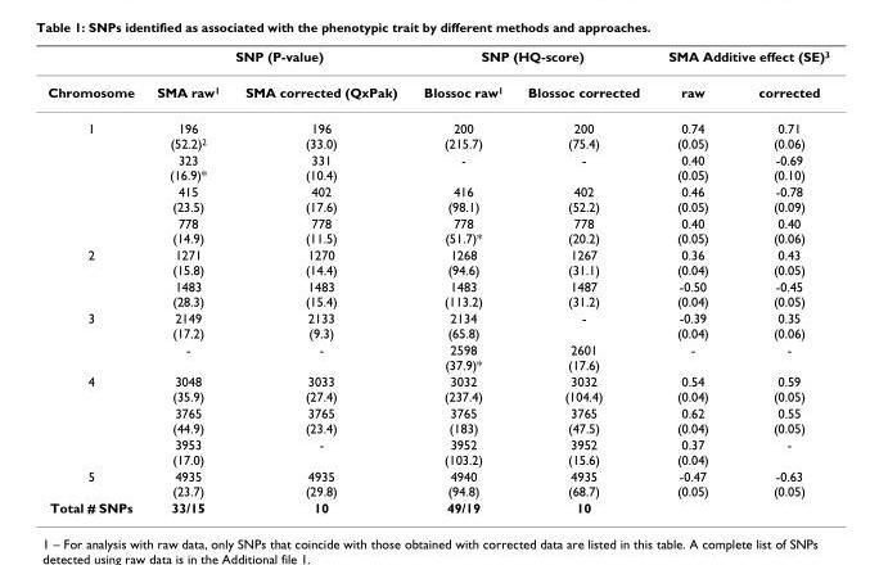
<table><thead><tr><td rowspan="2">Chromosome</td><td colspan="2">SNP (P-value)</td><td colspan="2">SNP (HQ-score)</td><td colspan="2">SMA Additive effect (SE)<sup>3</sup></td></tr><tr><td>SMA raw<sup>1</sup></td><td>SMA corrected (QxPak)</td><td>Blossoc raw<sup>1</sup></td><td>Blossoc corrected</td><td>raw</td><td>corrected</td></tr></thead><tbody><tr><td rowspan="4">1</td><td>196 (52.2)<sup>2</sup></td><td>196 (33.0)</td><td>200 (215.7)</td><td>200 (75.4)</td><td>0.74 (0.05)</td><td>0.71 (0.06)</td></tr><tr><td>323 (16.9)*</td><td>331 (10.4)</td><td>-</td><td>-</td><td>0.40 (0.05)</td><td>-0.69 (0.10)</td></tr><tr><td>415 (23.5)</td><td>402 (17.6)</td><td>416 (98.1)</td><td>402 (52.2)</td><td>0.46 (0.05)</td><td>-0.78 (0.09)</td></tr><tr><td>778 (14.9)</td><td>778 (11.5)</td><td>778 (51.7)*</td><td>778 (20.2)</td><td>0.40 (0.05)</td><td>0.40 (0.06)</td></tr><tr><td rowspan="2">2</td><td>1271 (15.8)</td><td>1270 (14.4)</td><td>1268 (94.6)</td><td>1267 (31.1)</td><td>0.36 (0.04)</td><td>0.43 (0.05)</td></tr><tr><td>1483 (28.3)</td><td>1483 (15.4)</td><td>1483 (113.2)</td><td>1487 (31.2)</td><td>-0.50 (0.04)</td><td>-0.45 (0.05)</td></tr><tr><td rowspan="2">3</td><td>2149 (17.2)</td><td>2133 (9.3)</td><td>2134 (65.8)</td><td>-</td><td>-0.39 (0.04)</td><td>0.35 (0.06)</td></tr><tr><td>-</td><td>-</td><td>2598 (37.9)*</td><td>2601 (17.6)</td><td>-</td><td>-</td></tr><tr><td rowspan="3">4</td><td>3048 (35.9)</td><td>3033 (27.4)</td><td>3032 (237.4)</td><td>3032 (104.4)</td><td>0.54 (0.04)</td><td>0.59 (0.05)</td></tr><tr><td>3765 (44.9)</td><td>3765 (23.4)</td><td>3765 (183)</td><td>3765 (47.5)</td><td>0.62 (0.04)</td><td>0.55 (0.05)</td></tr><tr><td>3953 (17.0)</td><td>-</td><td>3952 (103.2)</td><td>3952 (15.6)</td><td>0.37 (0.04)</td><td>-</td></tr><tr><td>5</td><td>4935 (23.7)</td><td>4935 (29.8)</td><td>4940 (94.8)</td><td>4935 (68.7)</td><td>-0.47 (0.05)</td><td>-0.63 (0.05)</td></tr><tr><td>Total # SNPs</td><td>33/15</td><td>10</td><td>49/19</td><td>10</td><td></td><td></td></tr></tbody></table>